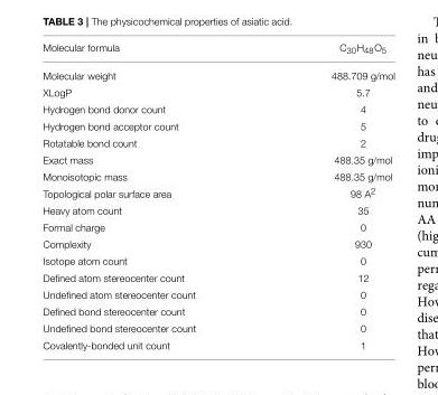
<table><thead><tr><td>Molecular formula</td><td>C<sub>30</sub>H<sub>48</sub>O<sub>5</sub></td></tr></thead><tbody><tr><td>Molecular weight</td><td>488.709 g/mol</td></tr><tr><td>XLogP</td><td>5.7</td></tr><tr><td>Hydrogen bond donor count</td><td>4</td></tr><tr><td>Hydrogen bond acceptor count</td><td>5</td></tr><tr><td>Rotatable bond count</td><td>2</td></tr><tr><td>Exact mass</td><td>488.35 g/mol</td></tr><tr><td>Monoisotopic mass</td><td>488.35 g/mol</td></tr><tr><td>Topological polar surface area</td><td>98 A<sup>2</sup></td></tr><tr><td>Heavy atom count</td><td>35</td></tr><tr><td>Formal charge</td><td>0</td></tr><tr><td>Complexity</td><td>930</td></tr><tr><td>Isotope atom count</td><td>0</td></tr><tr><td>Defined atom stereocenter count</td><td>12</td></tr><tr><td>Undefined atom stereocenter count</td><td>0</td></tr><tr><td>Defined bond stereocenter count</td><td>0</td></tr><tr><td>Undefined bond stereocenter count</td><td>0</td></tr><tr><td>Covalently-bonded unit count</td><td>1</td></tr></tbody></table>